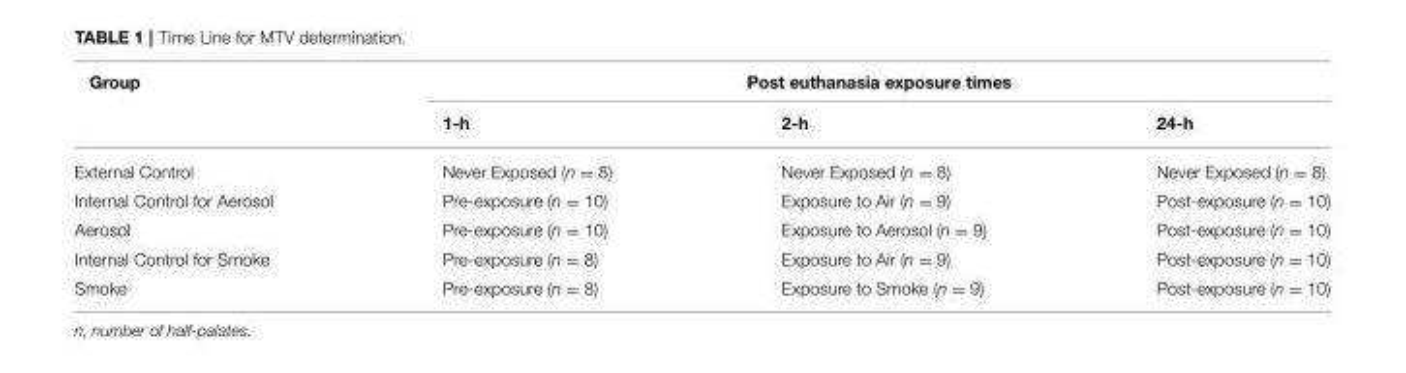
<table><thead><tr><td rowspan="2">Group</td><td colspan="3">Post euthanasia exposure times</td></tr><tr><td>1-h</td><td>2-h</td><td>24-h</td></tr></thead><tbody><tr><td>External Control</td><td>Never Exposed (n = 8)</td><td>Never Exposed (n = 8)</td><td>Never Exposed (n = 8)</td></tr><tr><td>Internal Control for Aerosol</td><td>Pre-exposure (n = 10)</td><td>Exposure to Air (n = 9)</td><td>Post-exposure (n = 10)</td></tr><tr><td>Aerosol</td><td>Pre-exposure (n = 10)</td><td>Exposure to Aerosol (n = 9)</td><td>Post-exposure (n = 10)</td></tr><tr><td>Internal Control for Smoke</td><td>Pre-exposure (n = 8)</td><td>Exposure to Air (n = 9)</td><td>Post-exposure (n = 10)</td></tr><tr><td>Smoke</td><td>Pre-exposure (n = 8)</td><td>Exposure to Smoke (n = 9)</td><td>Post-exposure (n = 10)</td></tr></tbody></table>